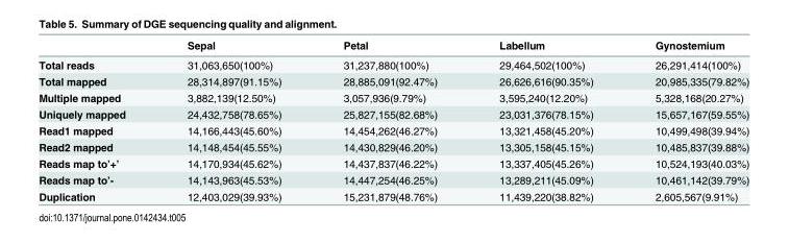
<table><thead><tr><td></td><td>Sepal</td><td>Petal</td><td>Labellum</td><td>Gynostemium</td></tr></thead><tbody><tr><td>Total reads</td><td>31,063,650(100%)</td><td>31,237,880(100%)</td><td>29,464,502(100%)</td><td>26,291,414(100%)</td></tr><tr><td>Total mapped</td><td>28,314,897(91.15%)</td><td>28,885,091(92.47%)</td><td>26,626,616(90.35%)</td><td>20,985,335(79.82%)</td></tr><tr><td>Multiple mapped</td><td>3,882,139(12.50%)</td><td>3,057,936(9.79%)</td><td>3,595,240(12.20%)</td><td>5,328,168(20.27%)</td></tr><tr><td>Uniquely mapped</td><td>24,432,758(78.65%)</td><td>25,827,155(82.68%)</td><td>23,031,376(78.15%)</td><td>15,657,167(59.55%)</td></tr><tr><td>Read1 mapped</td><td>14,166,443(45.60%)</td><td>14,454,262(46.27%)</td><td>13,321,458(45.20%)</td><td>10,499,498(39.94%)</td></tr><tr><td>Read2 mapped</td><td>14,148,454(45.55%)</td><td>14,430,829(46.20%)</td><td>13,305,158(45.15%)</td><td>10,485,837(39.88%)</td></tr><tr><td>Reads map to’+’</td><td>14,170,934(45.62%)</td><td>14,437,837(46.22%)</td><td>13,337,405(45.26%)</td><td>10,524,193(40.03%)</td></tr><tr><td>Reads map to’-</td><td>14,143,963(45.53%)</td><td>14,447,254(46.25%)</td><td>13,289,211(45.09%)</td><td>10,461,142(39.79%)</td></tr><tr><td>Duplication</td><td>12,403,029(39.93%)</td><td>15,231,879(48.76%)</td><td>11,439,220(38.82%)</td><td>2,605,567(9.91%)</td></tr></tbody></table>